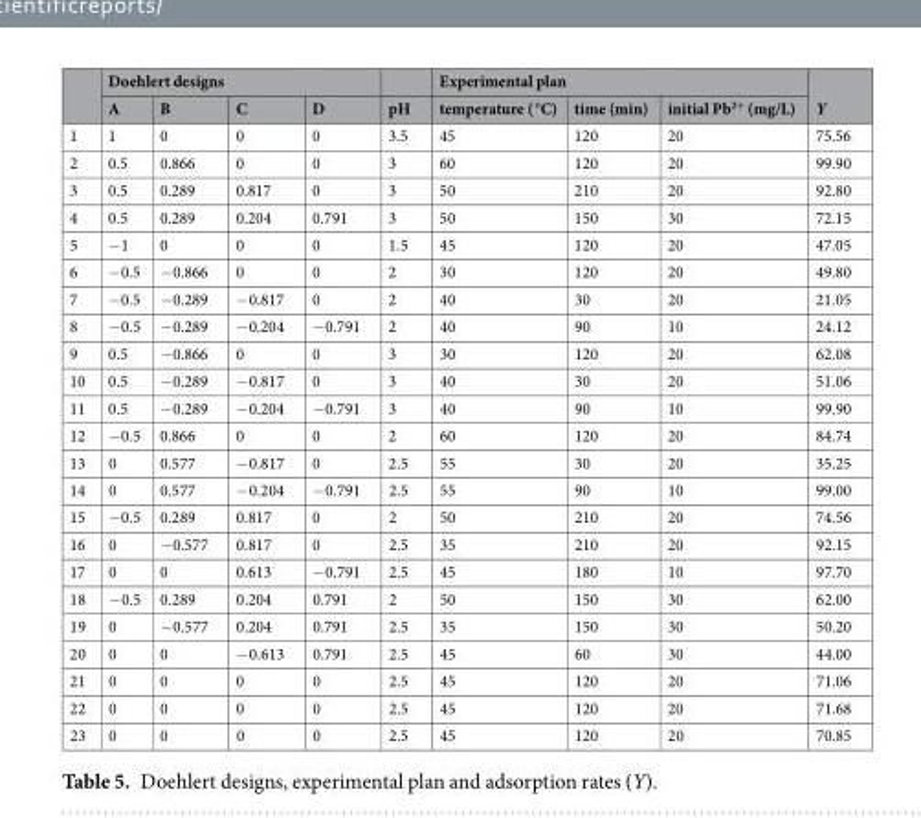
<table><thead><tr><td rowspan="2"></td><td colspan="4">Doehlert designs</td><td rowspan="2">pH</td><td colspan="3">Experimental plan</td><td rowspan="2">Y</td></tr><tr><td>A</td><td>B</td><td>C</td><td>D</td><td>temperature ( °C)</td><td>time (min)</td><td>initial Pb<sup>2+</sup> (mg/L)</td></tr></thead><tbody><tr><td>1</td><td>1</td><td>0</td><td>0</td><td>0</td><td>3.5</td><td>45</td><td>120</td><td>20</td><td>75.56</td></tr><tr><td>2</td><td>0.5</td><td>0.866</td><td>0</td><td>0</td><td>3</td><td>60</td><td>120</td><td>20</td><td>99.90</td></tr><tr><td>3</td><td>0.5</td><td>0.289</td><td>0.817</td><td>0</td><td>3</td><td>50</td><td>210</td><td>20</td><td>92.80</td></tr><tr><td>4</td><td>0.5</td><td>0.289</td><td>0.204</td><td>0.791</td><td>3</td><td>50</td><td>150</td><td>30</td><td>72.15</td></tr><tr><td>5</td><td>−1</td><td>0</td><td>0</td><td>0</td><td>1.5</td><td>45</td><td>120</td><td>20</td><td>47.05</td></tr><tr><td>6</td><td>−0.5</td><td>−0.866</td><td>0</td><td>0</td><td>2</td><td>30</td><td>120</td><td>20</td><td>49.80</td></tr><tr><td>7</td><td>−0.5</td><td>−0.289</td><td>−0.817</td><td>0</td><td>2</td><td>40</td><td>30</td><td>20</td><td>21.05</td></tr><tr><td>8</td><td>−0.5</td><td>−0.289</td><td>−0.204</td><td>−0.791</td><td>2</td><td>40</td><td>90</td><td>10</td><td>24.12</td></tr><tr><td>9</td><td>0.5</td><td>−0.866</td><td>0</td><td>0</td><td>3</td><td>30</td><td>120</td><td>20</td><td>62.08</td></tr><tr><td>10</td><td>0.5</td><td>−0.289</td><td>−0.817</td><td>0</td><td>3</td><td>40</td><td>30</td><td>20</td><td>51.06</td></tr><tr><td>11</td><td>0.5</td><td>−0.289</td><td>−0.204</td><td>−0.791</td><td>3</td><td>40</td><td>90</td><td>10</td><td>99.90</td></tr><tr><td>12</td><td>−0.5</td><td>0.866</td><td>0</td><td>0</td><td>2</td><td>60</td><td>120</td><td>20</td><td>84.74</td></tr><tr><td>13</td><td>0</td><td>0.577</td><td>−0.817</td><td>0</td><td>2.5</td><td>55</td><td>30</td><td>20</td><td>35.25</td></tr><tr><td>14</td><td>0</td><td>0.577</td><td>−0.204</td><td>−0.791</td><td>2.5</td><td>55</td><td>90</td><td>10</td><td>99.00</td></tr><tr><td>15</td><td>−0.5</td><td>0.289</td><td>0.817</td><td>0</td><td>2</td><td>50</td><td>210</td><td>20</td><td>74.56</td></tr><tr><td>16</td><td>0</td><td>−0.577</td><td>0.817</td><td>0</td><td>2.5</td><td>35</td><td>210</td><td>20</td><td>92.15</td></tr><tr><td>17</td><td>0</td><td>0</td><td>0.613</td><td>−0.791</td><td>2.5</td><td>45</td><td>180</td><td>10</td><td>97.70</td></tr><tr><td>18</td><td>−0.5</td><td>0.289</td><td>0.204</td><td>0.791</td><td>2</td><td>50</td><td>150</td><td>30</td><td>62.00</td></tr><tr><td>19</td><td>0</td><td>−0.577</td><td>0.204</td><td>0.791</td><td>2.5</td><td>35</td><td>150</td><td>30</td><td>50.20</td></tr><tr><td>20</td><td>0</td><td>0</td><td>−0.613</td><td>0.791</td><td>2.5</td><td>45</td><td>60</td><td>30</td><td>44.00</td></tr><tr><td>21</td><td>0</td><td>0</td><td>0</td><td>0</td><td>2.5</td><td>45</td><td>120</td><td>20</td><td>71.06</td></tr><tr><td>22</td><td>0</td><td>0</td><td>0</td><td>0</td><td>2.5</td><td>45</td><td>120</td><td>20</td><td>71.68</td></tr><tr><td>23</td><td>0</td><td>0</td><td>0</td><td>0</td><td>2.5</td><td>45</td><td>120</td><td>20</td><td>70.85</td></tr></tbody></table>